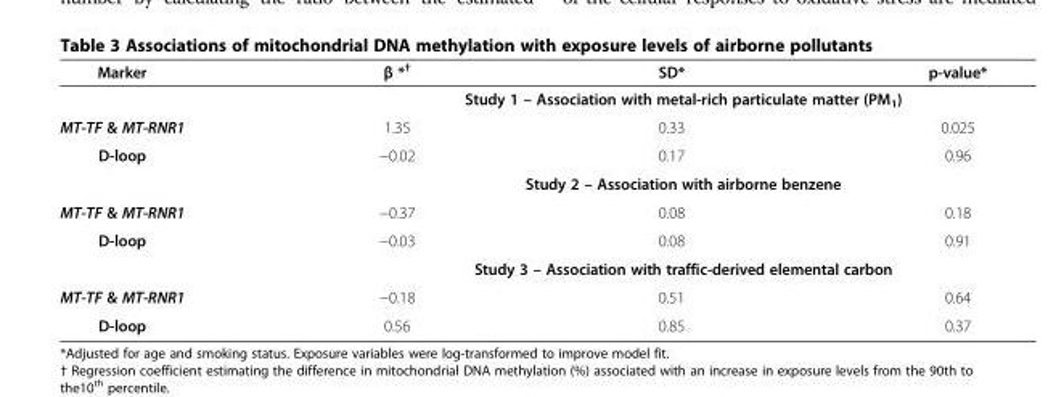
<table><thead><tr><td>Marker</td><td>β *<sup>†</sup></td><td>SD*</td><td>p-value*</td></tr></thead><tbody><tr><td></td><td colspan="3">Study 1 – Association with metal-rich particulate matter (PM<sub>1</sub>)</td></tr><tr><td>MT-TF &amp; MT-RNR1</td><td>1.35</td><td>0.33</td><td>0.025</td></tr><tr><td rowspan="2">D-loop</td><td>−0.02</td><td>0.17</td><td>0.96</td></tr><tr><td colspan="3">Study 2 – Association with airborne benzene</td></tr><tr><td>MT-TF &amp; MT-RNR1</td><td>−0.37</td><td>0.08</td><td>0.18</td></tr><tr><td rowspan="2">D-loop</td><td>−0.03</td><td>0.08</td><td>0.91</td></tr><tr><td colspan="3">Study 3 – Association with traffic-derived elemental carbon</td></tr><tr><td>MT-TF &amp; MT-RNR1</td><td>−0.18</td><td>0.51</td><td>0.64</td></tr><tr><td>D-loop</td><td>0.56</td><td>0.85</td><td>0.37</td></tr></tbody></table>